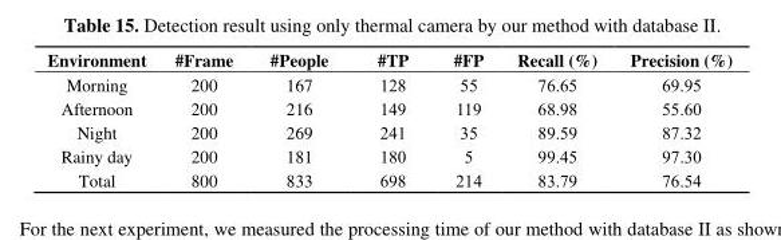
<table><thead><tr><td>Environment</td><td>#Frame</td><td>#People</td><td>#TP</td><td>#FP</td><td>Recall (%)</td><td>Precision (%)</td></tr></thead><tbody><tr><td>Morning</td><td>200</td><td>167</td><td>128</td><td>55</td><td>76.65</td><td>69.95</td></tr><tr><td>Afternoon</td><td>200</td><td>216</td><td>149</td><td>119</td><td>68.98</td><td>55.60</td></tr><tr><td>Night</td><td>200</td><td>269</td><td>241</td><td>35</td><td>89.59</td><td>87.32</td></tr><tr><td>Rainy day</td><td>200</td><td>181</td><td>180</td><td>5</td><td>99.45</td><td>97.30</td></tr><tr><td>Total</td><td>800</td><td>833</td><td>698</td><td>214</td><td>83.79</td><td>76.54</td></tr></tbody></table>